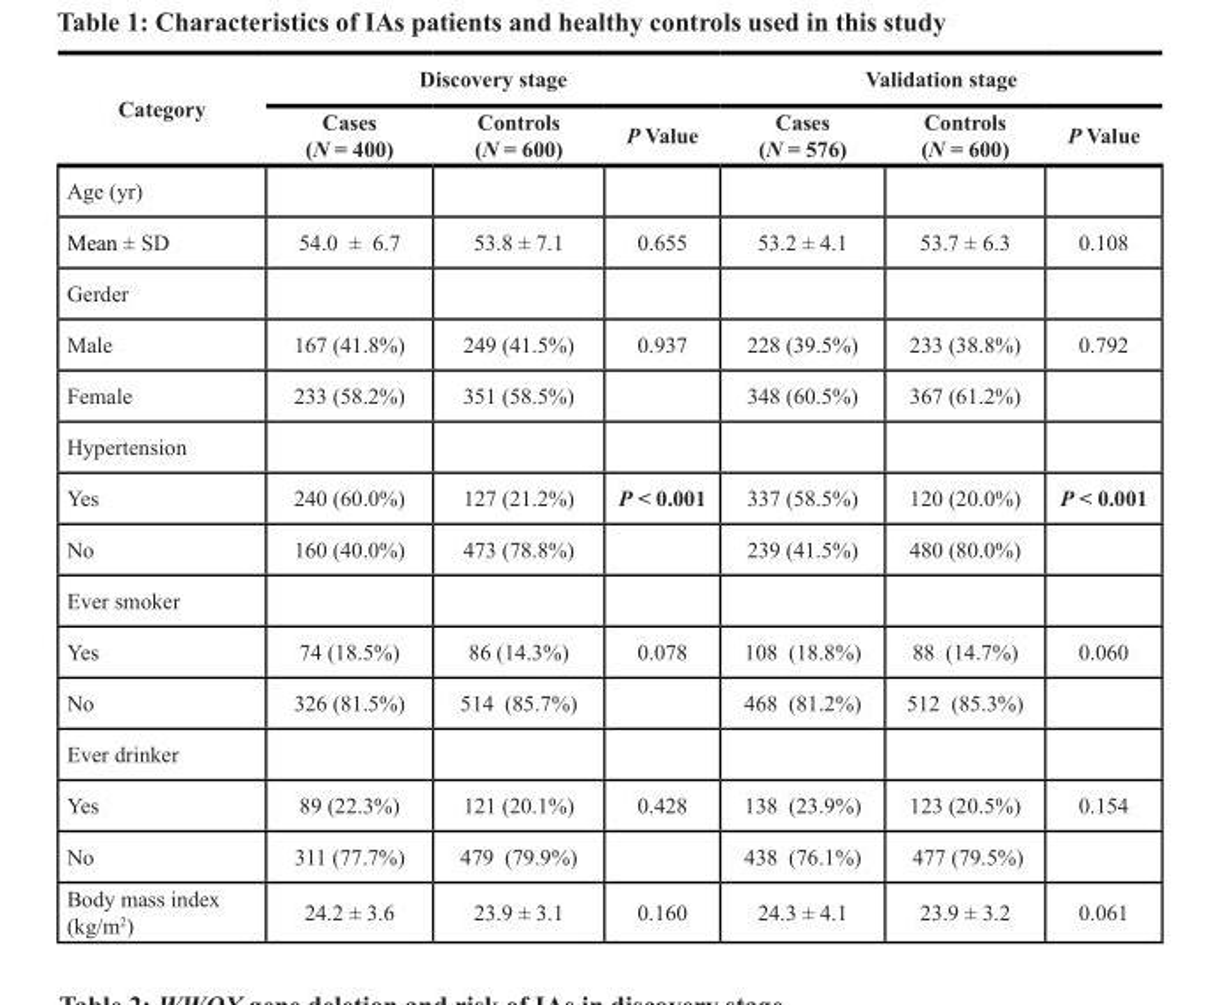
<table><thead><tr><td rowspan="2">Category</td><td colspan="3">Discovery stage</td><td colspan="3">Validation stage</td></tr><tr><td>Cases (N = 400)</td><td>Controls (N = 600)</td><td>P Value</td><td>Cases (N = 576)</td><td>Controls (N = 600)</td><td>P Value</td></tr></thead><tbody><tr><td colspan="7">Age (yr)</td></tr><tr><td>Mean ± SD</td><td>54.0 ± 6.7</td><td>53.8 ± 7.1</td><td>0.655</td><td>53.2 ± 4.1</td><td>53.7 ± 6.3</td><td>0.108</td></tr><tr><td colspan="7">Gerder</td></tr><tr><td>Male</td><td>167 (41.8%)</td><td>249 (41.5%)</td><td>0.937</td><td>228 (39.5%)</td><td>233 (38.8%)</td><td>0.792</td></tr><tr><td>Female</td><td>233 (58.2%)</td><td>351 (58.5%)</td><td></td><td>348 (60.5%)</td><td>367 (61.2%)</td><td></td></tr><tr><td colspan="7">Hypertension</td></tr><tr><td>Yes</td><td>240 (60.0%)</td><td>127 (21.2%)</td><td>P &lt; 0.001</td><td>337 (58.5%)</td><td>120 (20.0%)</td><td>P &lt; 0.001</td></tr><tr><td>No</td><td>160 (40.0%)</td><td>473 (78.8%)</td><td></td><td>239 (41.5%)</td><td>480 (80.0%)</td><td></td></tr><tr><td colspan="7">Ever smoker</td></tr><tr><td>Yes</td><td>74 (18.5%)</td><td>86 (14.3%)</td><td>0.078</td><td>108 (18.8%)</td><td>88 (14.7%)</td><td>0.060</td></tr><tr><td>No</td><td>326 (81.5%)</td><td>514 (85.7%)</td><td></td><td>468 (81.2%)</td><td>512 (85.3%)</td><td></td></tr><tr><td colspan="7">Ever drinker</td></tr><tr><td>Yes</td><td>89 (22.3%)</td><td>121 (20.1%)</td><td>0.428</td><td>138 (23.9%)</td><td>123 (20.5%)</td><td>0.154</td></tr><tr><td>No</td><td>311 (77.7%)</td><td>479 (79.9%)</td><td></td><td>438 (76.1%)</td><td>477 (79.5%)</td><td></td></tr><tr><td>Body mass index (kg/m<sup>2</sup>)</td><td>24.2 ± 3.6</td><td>23.9 ± 3.1</td><td>0.160</td><td>24.3 ± 4.1</td><td>23.9 ± 3.2</td><td>0.061</td></tr></tbody></table>